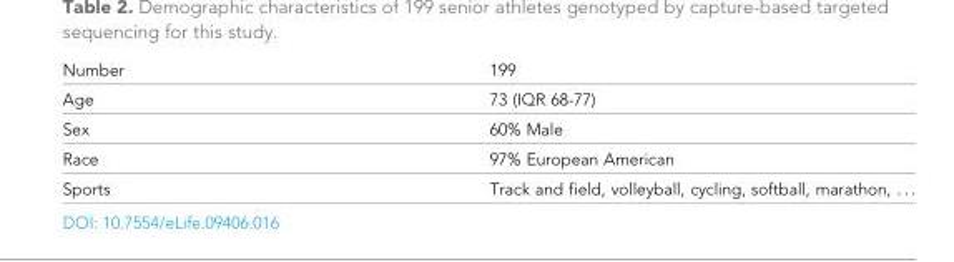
<table><tbody><tr><td>Number</td><td>199</td></tr><tr><td>Age</td><td>73 (IQR 68-77)</td></tr><tr><td>Sex</td><td>60% Male</td></tr><tr><td>Race</td><td>97% European American</td></tr><tr><td>Sports</td><td>Track and field, volleyball, cycling, softball, marathon,</td></tr></tbody></table>